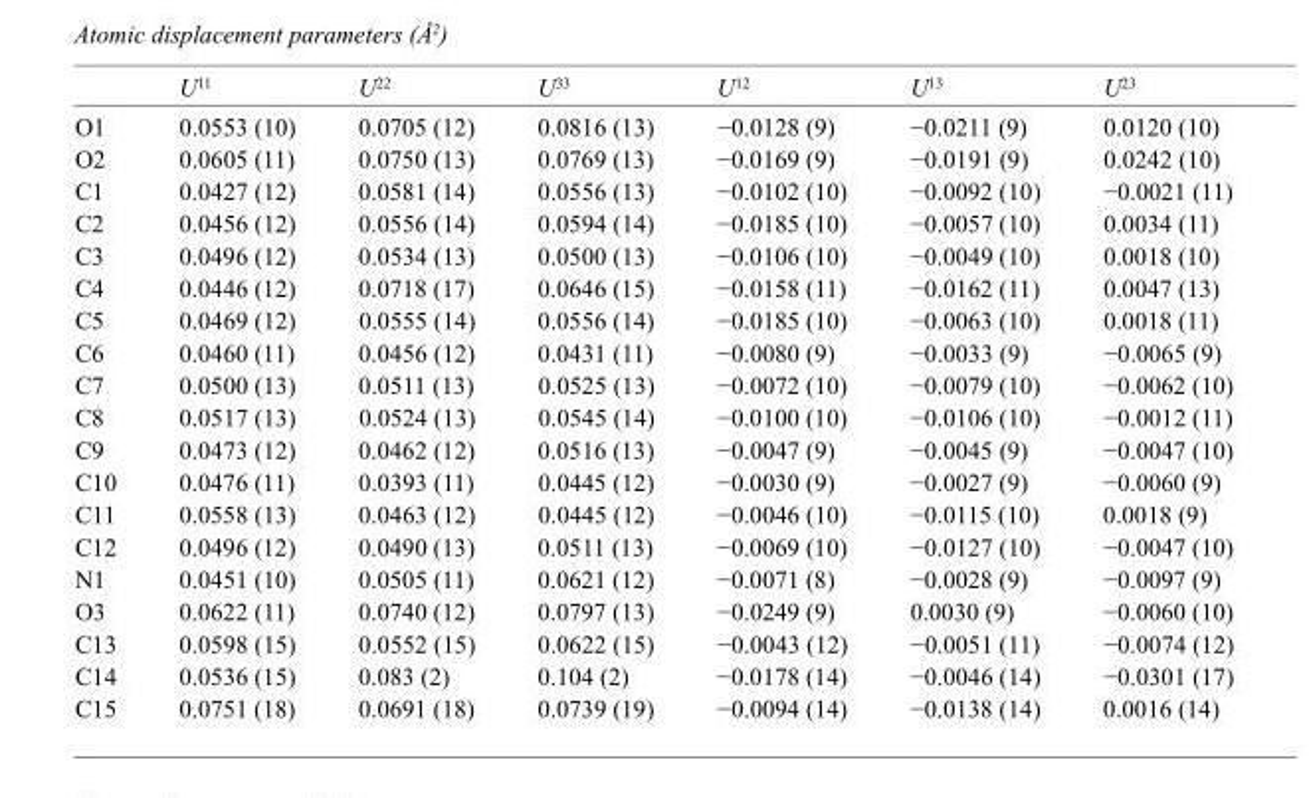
<table><thead><tr><td></td><td>U<sup>11</sup></td><td>U<sup>22</sup></td><td>U<sup>33</sup></td><td>U<sup>12</sup></td><td>U<sup>13</sup></td><td>U<sup>23</sup></td></tr></thead><tbody><tr><td>O1</td><td>0.0553 (10)</td><td>0.0705 (12)</td><td>0.0816 (13)</td><td>−0.0128 (9)</td><td>−0.0211 (9)</td><td>0.0120 (10)</td></tr><tr><td>O2</td><td>0.0605 (11)</td><td>0.0750 (13)</td><td>0.0769 (13)</td><td>−0.0169 (9)</td><td>−0.0191 (9)</td><td>0.0242 (10)</td></tr><tr><td>C1</td><td>0.0427 (12)</td><td>0.0581 (14)</td><td>0.0556 (13)</td><td>−0.0102 (10)</td><td>−0.0092 (10)</td><td>−0.0021 (11)</td></tr><tr><td>C2</td><td>0.0456 (12)</td><td>0.0556 (14)</td><td>0.0594 (14)</td><td>−0.0185 (10)</td><td>−0.0057 (10)</td><td>0.0034 (11)</td></tr><tr><td>C3</td><td>0.0496 (12)</td><td>0.0534 (13)</td><td>0.0500 (13)</td><td>−0.0106 (10)</td><td>−0.0049 (10)</td><td>0.0018 (10)</td></tr><tr><td>C4</td><td>0.0446 (12)</td><td>0.0718 (17)</td><td>0.0646 (15)</td><td>−0.0158 (11)</td><td>−0.0162 (11)</td><td>0.0047 (13)</td></tr><tr><td>C5</td><td>0.0469 (12)</td><td>0.0555 (14)</td><td>0.0556 (14)</td><td>−0.0185 (10)</td><td>−0.0063 (10)</td><td>0.0018 (11)</td></tr><tr><td>C6</td><td>0.0460 (11)</td><td>0.0456 (12)</td><td>0.0431 (11)</td><td>−0.0080 (9)</td><td>−0.0033 (9)</td><td>−0.0065 (9)</td></tr><tr><td>C7</td><td>0.0500 (13)</td><td>0.0511 (13)</td><td>0.0525 (13)</td><td>−0.0072 (10)</td><td>−0.0079 (10)</td><td>−0.0062 (10)</td></tr><tr><td>C8</td><td>0.0517 (13)</td><td>0.0524 (13)</td><td>0.0545 (14)</td><td>−0.0100 (10)</td><td>−0.0106 (10)</td><td>−0.0012 (11)</td></tr><tr><td>C9</td><td>0.0473 (12)</td><td>0.0462 (12)</td><td>0.0516 (13)</td><td>−0.0047 (9)</td><td>−0.0045 (9)</td><td>−0.0047 (10)</td></tr><tr><td>C10</td><td>0.0476 (11)</td><td>0.0393 (11)</td><td>0.0445 (12)</td><td>−0.0030 (9)</td><td>−0.0027 (9)</td><td>−0.0060 (9)</td></tr><tr><td>C11</td><td>0.0558 (13)</td><td>0.0463 (12)</td><td>0.0445 (12)</td><td>−0.0046 (10)</td><td>−0.0115 (10)</td><td>0.0018 (9)</td></tr><tr><td>C12</td><td>0.0496 (12)</td><td>0.0490 (13)</td><td>0.0511 (13)</td><td>−0.0069 (10)</td><td>−0.0127 (10)</td><td>−0.0047 (10)</td></tr><tr><td>N1</td><td>0.0451 (10)</td><td>0.0505 (11)</td><td>0.0621 (12)</td><td>−0.0071 (8)</td><td>−0.0028 (9)</td><td>−0.0097 (9)</td></tr><tr><td>O3</td><td>0.0622 (11)</td><td>0.0740 (12)</td><td>0.0797 (13)</td><td>−0.0249 (9)</td><td>0.0030 (9)</td><td>−0.0060 (10)</td></tr><tr><td>C13</td><td>0.0598 (15)</td><td>0.0552 (15)</td><td>0.0622 (15)</td><td>−0.0043 (12)</td><td>−0.0051 (11)</td><td>−0.0074 (12)</td></tr><tr><td>C14</td><td>0.0536 (15)</td><td>0.083 (2)</td><td>0.104 (2)</td><td>−0.0178 (14)</td><td>−0.0046 (14)</td><td>−0.0301 (17)</td></tr><tr><td>C15</td><td>0.0751 (18)</td><td>0.0691 (18)</td><td>0.0739 (19)</td><td>−0.0094 (14)</td><td>−0.0138 (14)</td><td>0.0016 (14)</td></tr></tbody></table>